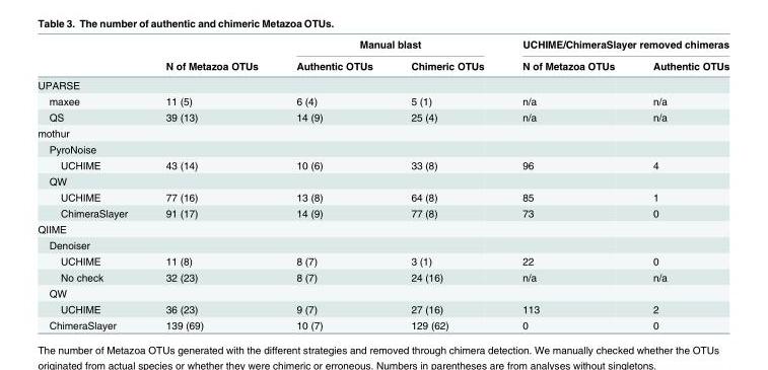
<table><thead><tr><td rowspan="2"></td><td rowspan="2">N of Metazoa OTUs</td><td colspan="2">Manual blast</td><td colspan="2">UCHIME/ChimeraSlayer removed chimeras</td></tr><tr><td>Authentic OTUs</td><td>Chimeric OTUs</td><td>N of Metazoa OTUs</td><td>Authentic OTUs</td></tr></thead><tbody><tr><td colspan="6">UPARSE</td></tr><tr><td>maxee</td><td>11 (5)</td><td>6 (4)</td><td>5 (1)</td><td>n/a</td><td>n/a</td></tr><tr><td>QS</td><td>39 (13)</td><td>14 (9)</td><td>25 (4)</td><td>n/a</td><td>n/a</td></tr><tr><td colspan="6">mothur</td></tr><tr><td colspan="6">PyroNoise</td></tr><tr><td>UCHIME</td><td>43 (14)</td><td>10 (6)</td><td>33 (8)</td><td>96</td><td>4</td></tr><tr><td colspan="6">QW</td></tr><tr><td>UCHIME</td><td>77 (16)</td><td>13 (8)</td><td>64 (8)</td><td>85</td><td>1</td></tr><tr><td>ChimeraSlayer</td><td>91 (17)</td><td>14 (9)</td><td>77 (8)</td><td>73</td><td>0</td></tr><tr><td colspan="6">QIIME</td></tr><tr><td colspan="6">Denoiser</td></tr><tr><td>UCHIME</td><td>11 (8)</td><td>8 (7)</td><td>3 (1)</td><td>22</td><td>0</td></tr><tr><td>No check</td><td>32 (23)</td><td>8 (7)</td><td>24 (16)</td><td>n/a</td><td>n/a</td></tr><tr><td colspan="6">QW</td></tr><tr><td>UCHIME</td><td>36 (23)</td><td>9 (7)</td><td>27 (16)</td><td>113</td><td>2</td></tr><tr><td>ChimeraSlayer</td><td>139 (69)</td><td>10 (7)</td><td>129 (62)</td><td>0</td><td>0</td></tr></tbody></table>